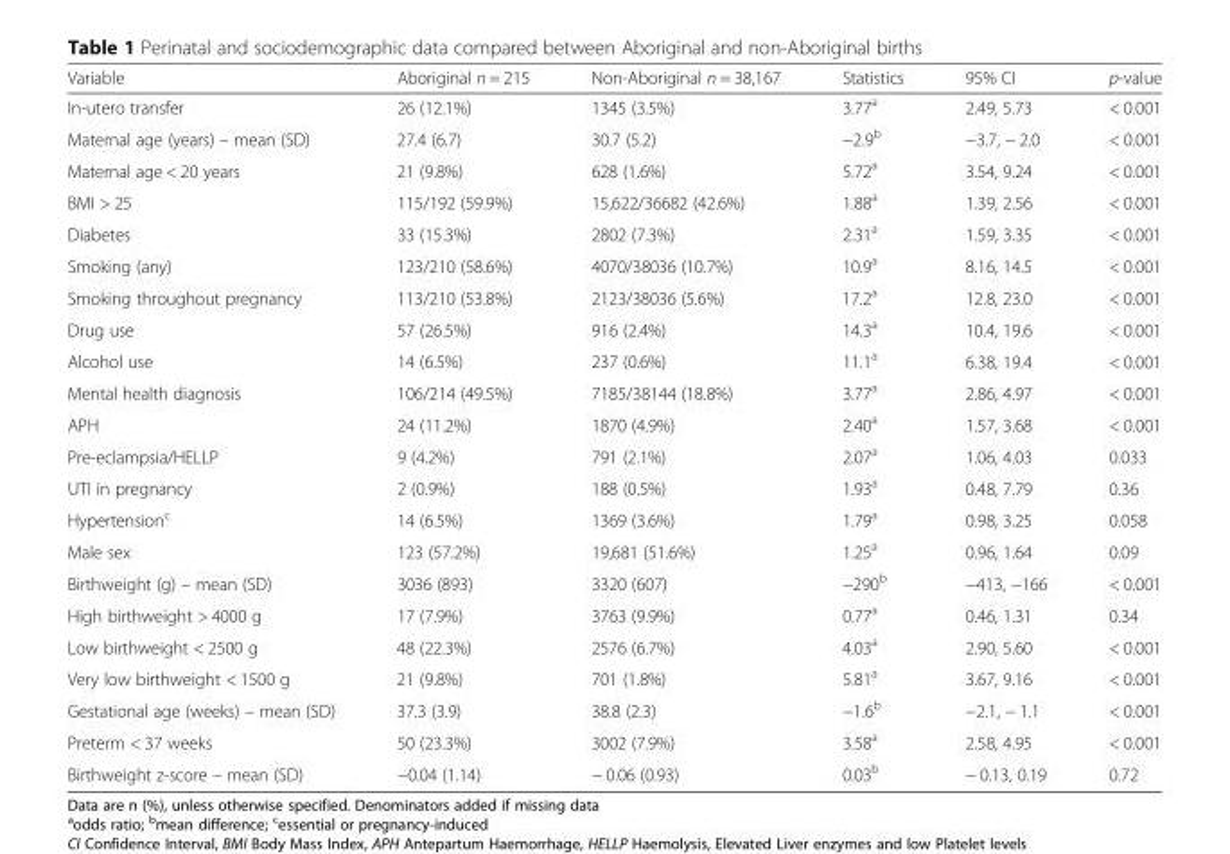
<table><thead><tr><td>Variable</td><td>Aboriginal n = 215</td><td>Non-Aboriginal n = 38,167</td><td>Statistics</td><td>95% CI</td><td>p-value</td></tr></thead><tbody><tr><td>In-utero transfer</td><td>26 (12.1%)</td><td>1345 (3.5%)</td><td>3.77<sup>a</sup></td><td>2.49, 5.73</td><td>&lt; 0.001</td></tr><tr><td>Maternal age (years) – mean (SD)</td><td>27.4 (6.7)</td><td>30.7 (5.2)</td><td>−2.9<sup>b</sup></td><td>−3.7, − 2.0</td><td>&lt; 0.001</td></tr><tr><td>Maternal age &lt; 20 years</td><td>21 (9.8%)</td><td>628 (1.6%)</td><td>5.72<sup>a</sup></td><td>3.54, 9.24</td><td>&lt; 0.001</td></tr><tr><td>BMI &gt; 25</td><td>115/192 (59.9%)</td><td>15,622/36682 (42.6%)</td><td>1.88<sup>a</sup></td><td>1.39, 2.56</td><td>&lt; 0.001</td></tr><tr><td>Diabetes</td><td>33 (15.3%)</td><td>2802 (7.3%)</td><td>2.31<sup>a</sup></td><td>1.59, 3.35</td><td>&lt; 0.001</td></tr><tr><td>Smoking (any)</td><td>123/210 (58.6%)</td><td>4070/38036 (10.7%)</td><td>10.9<sup>a</sup></td><td>8.16, 14.5</td><td>&lt; 0.001</td></tr><tr><td>Smoking throughout pregnancy</td><td>113/210 (53.8%)</td><td>2123/38036 (5.6%)</td><td>17.2<sup>a</sup></td><td>12.8, 23.0</td><td>&lt; 0.001</td></tr><tr><td>Drug use</td><td>57 (26.5%)</td><td>916 (2.4%)</td><td>14.3<sup>a</sup></td><td>10.4, 19.6</td><td>&lt; 0.001</td></tr><tr><td>Alcohol use</td><td>14 (6.5%)</td><td>237 (0.6%)</td><td>11.1<sup>a</sup></td><td>6.38, 19.4</td><td>&lt; 0.001</td></tr><tr><td>Mental health diagnosis</td><td>106/214 (49.5%)</td><td>7185/38144 (18.8%)</td><td>3.77<sup>a</sup></td><td>2.86, 4.97</td><td>&lt; 0.001</td></tr><tr><td>APH</td><td>24 (11.2%)</td><td>1870 (4.9%)</td><td>2.40<sup>a</sup></td><td>1.57, 3.68</td><td>&lt; 0.001</td></tr><tr><td>Pre-eclampsia/HELLP</td><td>9 (4.2%)</td><td>791 (2.1%)</td><td>2.07<sup>a</sup></td><td>1.06, 4.03</td><td>0.033</td></tr><tr><td>UTI in pregnancy</td><td>2 (0.9%)</td><td>188 (0.5%)</td><td>1.93<sup>a</sup></td><td>0.48, 7.79</td><td>0.36</td></tr><tr><td>Hypertension<sup>c</sup></td><td>14 (6.5%)</td><td>1369 (3.6%)</td><td>1.79<sup>a</sup></td><td>0.98, 3.25</td><td>0.058</td></tr><tr><td>Male sex</td><td>123 (57.2%)</td><td>19,681 (51.6%)</td><td>1.25<sup>a</sup></td><td>0.96, 1.64</td><td>0.09</td></tr><tr><td>Birthweight (g) – mean (SD)</td><td>3036 (893)</td><td>3320 (607)</td><td>−290<sup>b</sup></td><td>−413, −166</td><td>&lt; 0.001</td></tr><tr><td>High birthweight &gt; 4000 g</td><td>17 (7.9%)</td><td>3763 (9.9%)</td><td>0.77<sup>a</sup></td><td>0.46, 1.31</td><td>0.34</td></tr><tr><td>Low birthweight &lt; 2500 g</td><td>48 (22.3%)</td><td>2576 (6.7%)</td><td>4.03<sup>a</sup></td><td>2.90, 5.60</td><td>&lt; 0.001</td></tr><tr><td>Very low birthweight &lt; 1500 g</td><td>21 (9.8%)</td><td>701 (1.8%)</td><td>5.81<sup>a</sup></td><td>3.67, 9.16</td><td>&lt; 0.001</td></tr><tr><td>Gestational age (weeks) – mean (SD)</td><td>37.3 (3.9)</td><td>38.8 (2.3)</td><td>−1.6<sup>b</sup></td><td>−2.1, − 1.1</td><td>&lt; 0.001</td></tr><tr><td>Preterm &lt; 37 weeks</td><td>50 (23.3%)</td><td>3002 (7.9%)</td><td>3.58<sup>a</sup></td><td>2.58, 4.95</td><td>&lt; 0.001</td></tr><tr><td>Birthweight z-score – mean (SD)</td><td>−0.04 (1.14)</td><td>− 0.06 (0.93)</td><td>0.03<sup>b</sup></td><td>− 0.13, 0.19</td><td>0.72</td></tr></tbody></table>